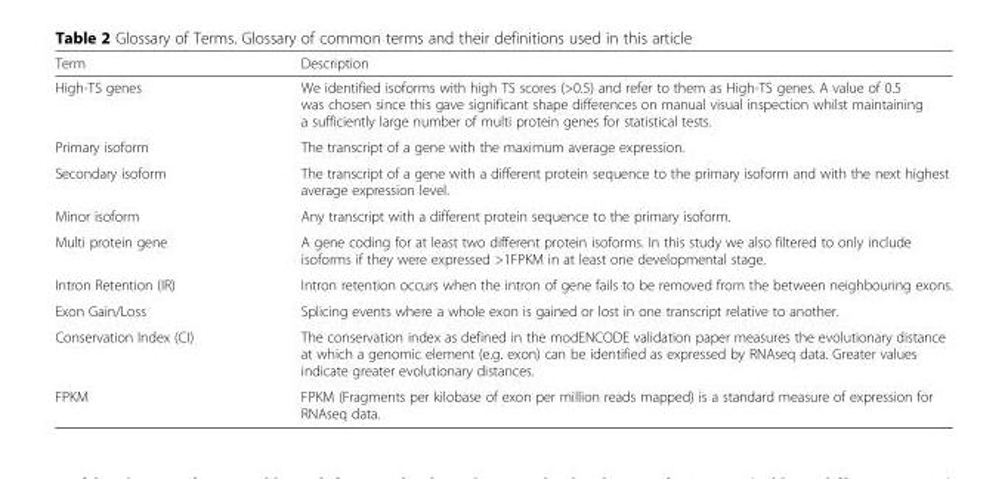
<table><thead><tr><td>Term</td><td>Description</td></tr></thead><tbody><tr><td>High-TS genes</td><td>We identified isoforms with high TS scores (&gt;0.5) and refer to them as High-TS genes. A value of 0.5 was chosen since this gave significant shape differences on manual visual inspection whilst maintaining a sufficiently large number of multi protein genes for statistical tests.</td></tr><tr><td>Primary isoform</td><td>The transcript of a gene with the maximum average expression.</td></tr><tr><td>Secondary isoform</td><td>The transcript of a gene with a different protein sequence to the primary isoform and with the next highest average expression level.</td></tr><tr><td>Minor isoform</td><td>Any transcript with a different protein sequence to the primary isoform.</td></tr><tr><td>Multi protein gene</td><td>A gene coding for at least two different protein isoforms. In this study we also filtered to only include isoforms if they were expressed &gt;1FPKM in at least one developmental stage.</td></tr><tr><td>Intron Retention (IR)</td><td>Intron retention occurs when the intron of gene fails to be removed from the between neighbouring exons.</td></tr><tr><td>Exon Gain/Loss</td><td>Splicing events where a whole exon is gained or lost in one transcript relative to another.</td></tr><tr><td>Conservation Index (CI)</td><td>The conservation index as defined in the modENCODE validation paper measures the evolutionary distance at which a genomic element (e.g. exon) can be identified as expressed by RNAseq data. Greater values indicate greater evolutionary distances.</td></tr><tr><td>FPKM</td><td>FPKM (Fragments per kilobase of exon per million reads mapped) is a standard measure of expression for RNAseq data.</td></tr></tbody></table>